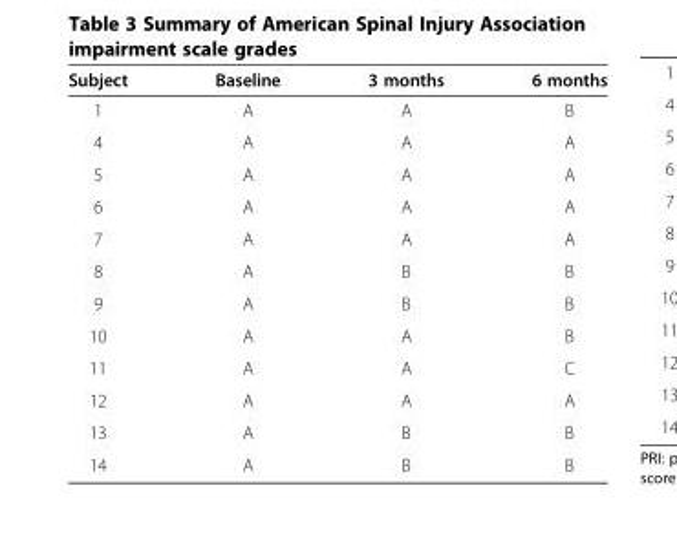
<table><thead><tr><td>Subject</td><td>Baseline</td><td>3 months</td><td>6 months</td></tr></thead><tbody><tr><td>1</td><td>A</td><td>A</td><td>B</td></tr><tr><td>4</td><td>A</td><td>A</td><td>A</td></tr><tr><td>5</td><td>A</td><td>A</td><td>A</td></tr><tr><td>6</td><td>A</td><td>A</td><td>A</td></tr><tr><td>7</td><td>A</td><td>A</td><td>A</td></tr><tr><td>8</td><td>A</td><td>B</td><td>B</td></tr><tr><td>9</td><td>A</td><td>B</td><td>B</td></tr><tr><td>10</td><td>A</td><td>A</td><td>B</td></tr><tr><td>11</td><td>A</td><td>A</td><td>C</td></tr><tr><td>12</td><td>A</td><td>A</td><td>A</td></tr><tr><td>13</td><td>A</td><td>B</td><td>B</td></tr><tr><td>14</td><td>A</td><td>B</td><td>B</td></tr></tbody></table>